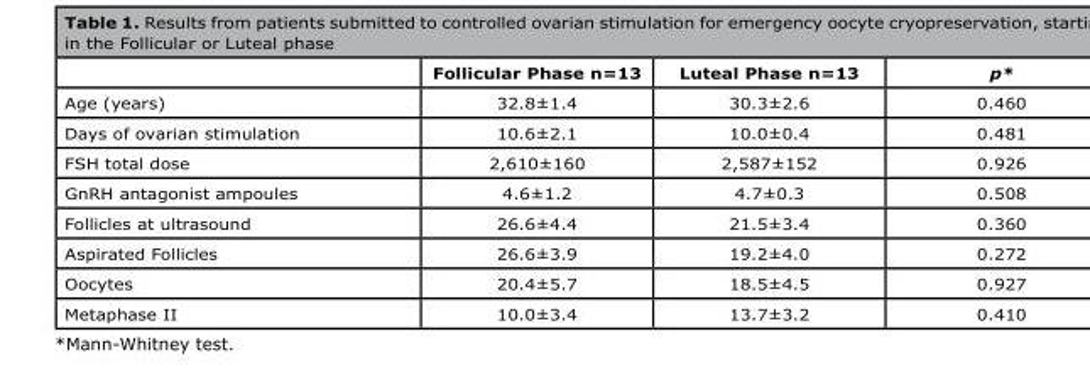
<table><thead><tr><td></td><td>Follicular Phase n=13</td><td>Luteal Phase n=13</td><td>p*</td></tr></thead><tbody><tr><td>Age (years)</td><td>32.8±1.4</td><td>30.3±2.6</td><td>0.460</td></tr><tr><td>Days of ovarian stimulation</td><td>10.6±2.1</td><td>10.0±0.4</td><td>0.481</td></tr><tr><td>FSH total dose</td><td>2,610±160</td><td>2,587±152</td><td>0.926</td></tr><tr><td>GnRH antagonist ampoules</td><td>4.6±1.2</td><td>4.7±0.3</td><td>0.508</td></tr><tr><td>Follicles at ultrasound</td><td>26.6±4.4</td><td>21.5±3.4</td><td>0.360</td></tr><tr><td>Aspirated Follicles</td><td>26.6±3.9</td><td>19.2±4.0</td><td>0.272</td></tr><tr><td>Oocytes</td><td>20.4±5.7</td><td>18.5±4.5</td><td>0.927</td></tr><tr><td>Metaphase II</td><td>10.0±3.4</td><td>13.7±3.2</td><td>0.410</td></tr></tbody></table>